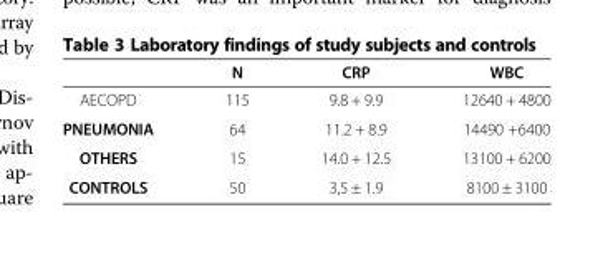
<table><thead><tr><td></td><td>N</td><td>CRP</td><td>WBC</td></tr></thead><tbody><tr><td>AECOPD</td><td>115</td><td>9.8 + 9.9</td><td>12640 + 4800</td></tr><tr><td>PNEUMONIA</td><td>64</td><td>11.2 + 8.9</td><td>14490 +6400</td></tr><tr><td>OTHERS</td><td>15</td><td>14.0 + 12.5</td><td>13100 + 6200</td></tr><tr><td>CONTROLS</td><td>50</td><td>3,5 ± 1.9</td><td>8100 ± 3100</td></tr></tbody></table>